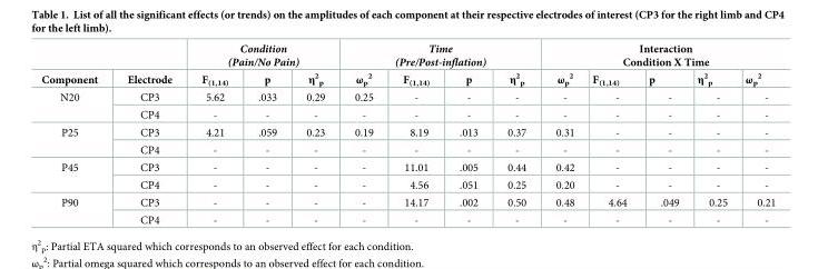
<table><thead><tr><td rowspan="2">Component</td><td rowspan="2">Electrode</td><td colspan="3">Condition (Pain/No Pain)</td><td colspan="4">Time (Pre/Post-inflation)</td><td colspan="5">Interaction Condition X Time</td></tr><tr><td>F<sub>(1,14)</sub></td><td>p</td><td>η<sup>2</sup> <sub>p</sub></td><td>ω<sub>p</sub> <sup>2</sup></td><td>F<sub>(1,14)</sub></td><td>p</td><td>η<sup>2</sup> <sub>p</sub></td><td>ω<sub>p</sub> <sup>2</sup></td><td>F<sub>(1,14)</sub></td><td>p</td><td>η<sup>2</sup> <sub>p</sub></td><td>ω<sub>p</sub> <sup>2</sup></td></tr></thead><tbody><tr><td rowspan="2">N20</td><td>CP3</td><td>5.62</td><td>.033</td><td>0.29</td><td>0.25</td><td>-</td><td>-</td><td>-</td><td>-</td><td>-</td><td>-</td><td>-</td><td>-</td></tr><tr><td>CP4</td><td>-</td><td>-</td><td>-</td><td>-</td><td>-</td><td>-</td><td>-</td><td>-</td><td>-</td><td>-</td><td>-</td><td>-</td></tr><tr><td rowspan="2">P25</td><td>CP3</td><td>4.21</td><td>.059</td><td>0.23</td><td>0.19</td><td>8.19</td><td>.013</td><td>0.37</td><td>0.31</td><td>-</td><td>-</td><td>-</td><td>-</td></tr><tr><td>CP4</td><td>-</td><td>-</td><td>-</td><td>-</td><td>-</td><td>-</td><td>-</td><td>-</td><td>-</td><td>-</td><td>-</td><td>-</td></tr><tr><td rowspan="2">P45</td><td>CP3</td><td>-</td><td>-</td><td>-</td><td>-</td><td>11.01</td><td>.005</td><td>0.44</td><td>0.42</td><td>-</td><td>-</td><td>-</td><td>-</td></tr><tr><td>CP4</td><td>-</td><td>-</td><td>-</td><td>-</td><td>4.56</td><td>.051</td><td>0.25</td><td>0.20</td><td>-</td><td>-</td><td>-</td><td>-</td></tr><tr><td rowspan="2">P90</td><td>CP3</td><td>-</td><td>-</td><td>-</td><td>-</td><td>14.17</td><td>.002</td><td>0.50</td><td>0.48</td><td>4.64</td><td>.049</td><td>0.25</td><td>0.21</td></tr><tr><td>CP4</td><td>-</td><td>-</td><td>-</td><td>-</td><td>-</td><td>-</td><td>-</td><td>-</td><td>-</td><td>-</td><td>-</td><td>-</td></tr></tbody></table>